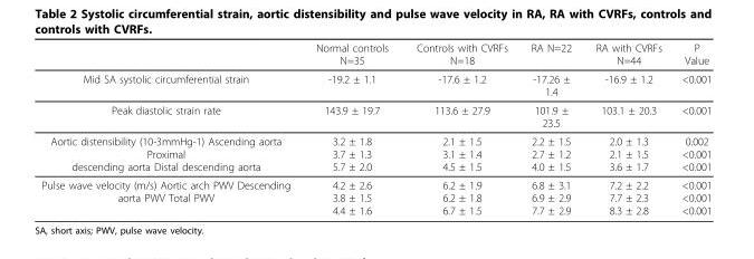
<table><thead><tr><td></td><td>Normal controls N=35</td><td>Controls with CVRFs N=18</td><td>RA N=22</td><td>RA with CVRFs N=44</td><td>P Value</td></tr></thead><tbody><tr><td>Mid SA systolic circumferential strain</td><td>-19.2 ± 1.1</td><td>-17.6 ± 1.2</td><td>-17.26 ± 1.4</td><td>-16.9 ± 1.2</td><td>&lt;0.001</td></tr><tr><td>Peak diastolic strain rate</td><td>143.9 ± 19.7</td><td>113.6 ± 27.9</td><td>101.9 ± 23.5</td><td>103.1 ± 20.3</td><td>&lt;0.001</td></tr><tr><td>Aortic distensibility (10-3mmHg-1) Ascending aorta Proximal descending aorta Distal descending aorta</td><td>3.2 ± 1.8 3.7 ± 1.3 5.7 ± 2.0</td><td>2.1 ± 1.5 3.1 ± 1.4 4.5 ± 1.5</td><td>2.2 ± 1.5 2.7 ± 1.2 4.0 ± 1.5</td><td>2.0 ± 1.3 2.1 ± 1.5 3.6 ± 1.7</td><td>0.002 &lt;0.001 &lt;0.001</td></tr><tr><td>Pulse wave velocity (m/s) Aortic arch PWV Descending aorta PWV Total PWV</td><td>4.2 ± 2.6 3.8 ± 1.5 4.4 ± 1.6</td><td>6.2 ± 1.9 6.2 ± 1.8 6.7 ± 1.5</td><td>6.8 ± 3.1 6.9 ± 2.9 7.7 ± 2.9</td><td>7.2 ± 2.2 7.7 ± 2.3 8.3 ± 2.8</td><td>&lt;0.001 &lt;0.001 &lt;0.001</td></tr></tbody></table>